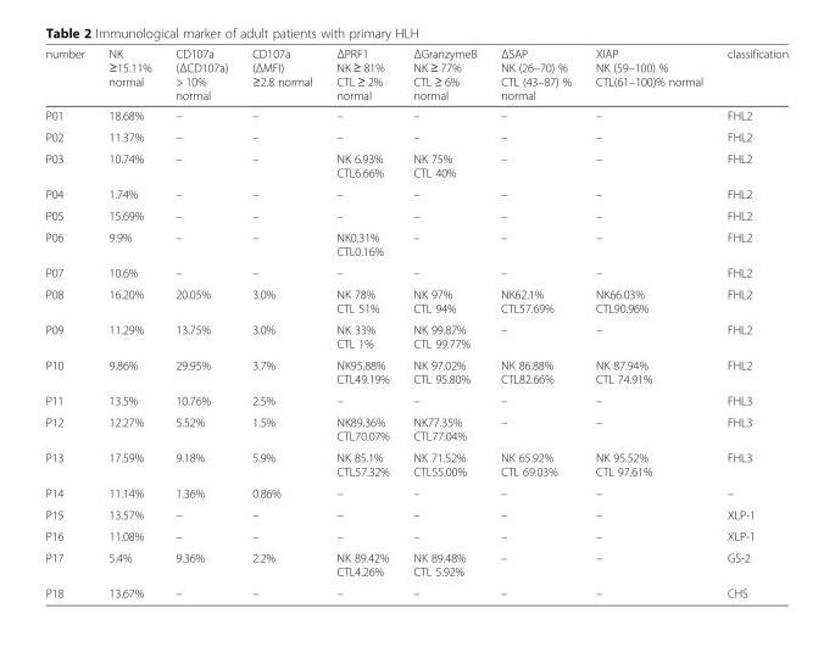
<table><thead><tr><td>number</td><td>NK ≥15.11% normal</td><td>CD107a (ΔCD107a) &gt; 10% normal</td><td>CD107a (ΔMFI) ≥2.8 normal</td><td>ΔPRF1 NK ≥ 81% CTL ≥ 2% normal</td><td>ΔGranzymeB NK ≥ 77% CTL ≥ 6% normal</td><td>ΔSAP NK (26–70) % CTL (43–87) % normal</td><td>XIAP NK (59–100) % CTL(61–100)% normal</td><td>classification</td></tr></thead><tbody><tr><td>P01</td><td>18.68%</td><td>–</td><td>–</td><td>–</td><td>–</td><td>–</td><td>–</td><td>FHL2</td></tr><tr><td>P02</td><td>11.37%</td><td>–</td><td>–</td><td>–</td><td>–</td><td>–</td><td>–</td><td>FHL2</td></tr><tr><td>P03</td><td>10.74%</td><td>–</td><td>–</td><td>NK 6.93% CTL6.66%</td><td>NK 75% CTL 40%</td><td>–</td><td>–</td><td>FHL2</td></tr><tr><td>P04</td><td>1.74%</td><td>–</td><td>–</td><td>–</td><td>–</td><td>–</td><td>–</td><td>FHL2</td></tr><tr><td>P05</td><td>15.69%</td><td>–</td><td>–</td><td>–</td><td>–</td><td>–</td><td>–</td><td>FHL2</td></tr><tr><td>P06</td><td>9.9%</td><td>–</td><td>–</td><td>NK0.31% CTL0.16%</td><td>–</td><td>–</td><td>–</td><td>FHL2</td></tr><tr><td>P07</td><td>10.6%</td><td>–</td><td>–</td><td>–</td><td>–</td><td>–</td><td>–</td><td>FHL2</td></tr><tr><td>P08</td><td>16.20%</td><td>20.05%</td><td>3.0%</td><td>NK 78% CTL 51%</td><td>NK 97% CTL 94%</td><td>NK62.1% CTL57.69%</td><td>NK66.03% CTL90.96%</td><td>FHL2</td></tr><tr><td>P09</td><td>11.29%</td><td>13.75%</td><td>3.0%</td><td>NK 33% CTL 1%</td><td>NK 99.87% CTL 99.77%</td><td>–</td><td>–</td><td>FHL2</td></tr><tr><td>P10</td><td>9.86%</td><td>29.95%</td><td>3.7%</td><td>NK95.88% CTL49.19%</td><td>NK 97.02% CTL 95.80%</td><td>NK 86.88% CTL82.66%</td><td>NK 87.94% CTL 74.91%</td><td>FHL2</td></tr><tr><td>P11</td><td>13.5%</td><td>10.76%</td><td>2.5%</td><td>–</td><td>–</td><td>–</td><td>–</td><td>FHL3</td></tr><tr><td>P12</td><td>12.27%</td><td>5.52%</td><td>1.5%</td><td>NK89.36% CTL70.07%</td><td>NK77.35% CTL77.04%</td><td>–</td><td>–</td><td>FHL3</td></tr><tr><td>P13</td><td>17.59%</td><td>9.18%</td><td>5.9%</td><td>NK 85.1% CTL57.32%</td><td>NK 71.52% CTL55.00%</td><td>NK 65.92% CTL 69.03%</td><td>NK 95.52% CTL 97.61%</td><td>FHL3</td></tr><tr><td>P14</td><td>11.14%</td><td>1.36%</td><td>0.86%</td><td>–</td><td>–</td><td>–</td><td>–</td><td>–</td></tr><tr><td>P15</td><td>13.57%</td><td>–</td><td>–</td><td>–</td><td>–</td><td>–</td><td>–</td><td>XLP-1</td></tr><tr><td>P16</td><td>11.08%</td><td>–</td><td>–</td><td>–</td><td>–</td><td>–</td><td>–</td><td>XLP-1</td></tr><tr><td>P17</td><td>5.4%</td><td>9.36%</td><td>2.2%</td><td>NK 89.42% CTL4.26%</td><td>NK 89.48% CTL 5.92%</td><td>–</td><td>–</td><td>GS-2</td></tr><tr><td>P18</td><td>13.67%</td><td>–</td><td>–</td><td>–</td><td>–</td><td>–</td><td>–</td><td>CHS</td></tr></tbody></table>